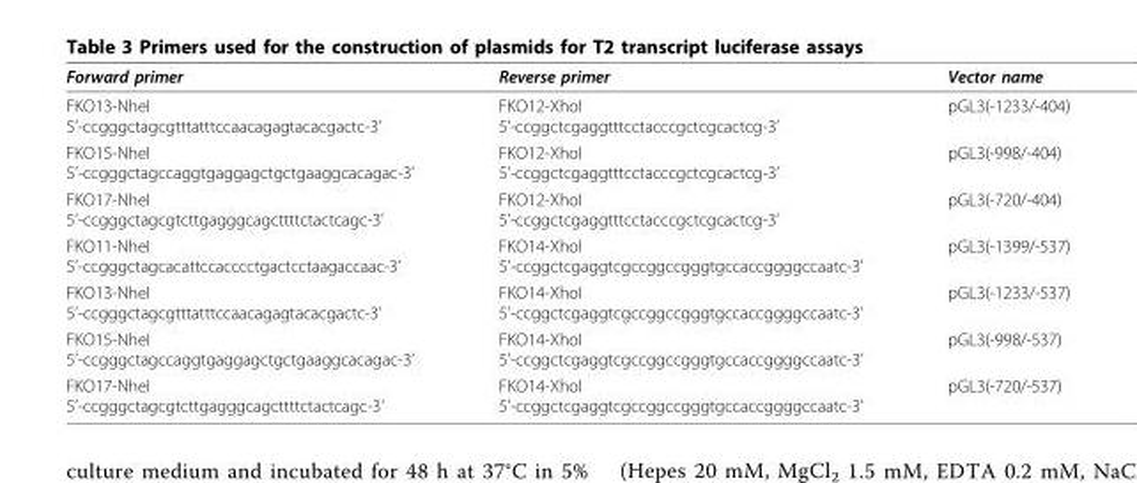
<table><thead><tr><td>Forward primer</td><td>Reverse primer</td><td>Vector name</td></tr></thead><tbody><tr><td>FKO13-NheI 5’-ccgggctagcgtttatttccaacagagtacacgactc-3’</td><td>FKO12-XhoI 5’-ccggctcgaggtttcctacccgctcgcactcg-3’</td><td>pGL3(-1233/-404)</td></tr><tr><td>FKO15-NheI 5’-ccgggctagccaggtgaggagctgctgaaggcacagac-3’</td><td>FKO12-XhoI 5’-ccggctcgaggtttcctacccgctcgcactcg-3’</td><td>pGL3(-998/-404)</td></tr><tr><td>FKO17-NheI 5’-ccgggctagcgtcttgagggcagcttttctactcagc-3’</td><td>FKO12-XhoI 5’-ccggctcgaggtttcctacccgctcgcactcg-3’</td><td>pGL3(-720/-404)</td></tr><tr><td>FKO11-NheI 5’-ccgggctagcacattccacccctgactcctaagaccaac-3’</td><td>FKO14-XhoI 5’-ccggctcgaggtcgccggccgggtgccaccggggccaatc-3’</td><td>pGL3(-1399/-537)</td></tr><tr><td>FKO13-NheI 5’-ccgggctagcgtttatttccaacagagtacacgactc-3’</td><td>FKO14-XhoI 5’-ccggctcgaggtcgccggccgggtgccaccggggccaatc-3’</td><td>pGL3(-1233/-537)</td></tr><tr><td>FKO15-NheI 5’-ccgggctagccaggtgaggagctgctgaaggcacagac-3’</td><td>FKO14-XhoI 5’-ccggctcgaggtcgccggccgggtgccaccggggccaatc-3’</td><td>pGL3(-998/-537)</td></tr><tr><td>FKO17-NheI 5’-ccgggctagcgtcttgagggcagcttttctactcagc-3’</td><td>FKO14-XhoI 5’-ccggctcgaggtcgccggccgggtgccaccggggccaatc-3’</td><td>pGL3(-720/-537)</td></tr></tbody></table>